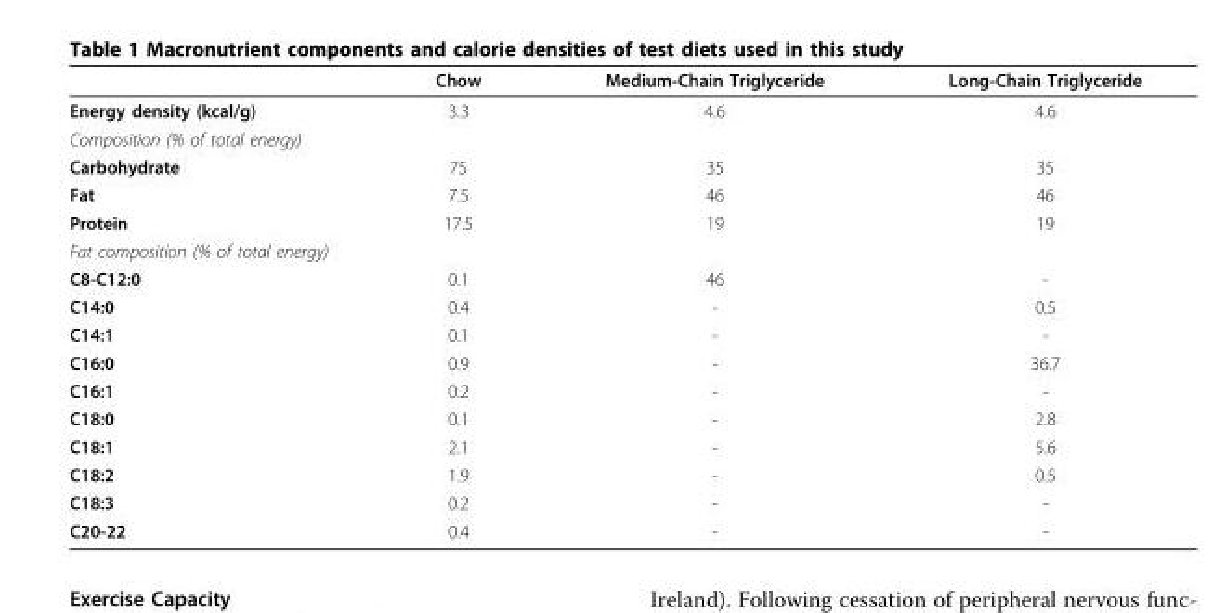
<table><thead><tr><td></td><td>Chow</td><td>Medium-Chain Triglyceride</td><td>Long-Chain Triglyceride</td></tr></thead><tbody><tr><td>Energy density (kcal/g)</td><td>3.3</td><td>4.6</td><td>4.6</td></tr><tr><td colspan="4">Composition (% of total energy)</td></tr><tr><td>Carbohydrate</td><td>75</td><td>35</td><td>35</td></tr><tr><td>Fat</td><td>7.5</td><td>46</td><td>46</td></tr><tr><td>Protein</td><td>17.5</td><td>19</td><td>19</td></tr><tr><td colspan="4">Fat composition (% of total energy)</td></tr><tr><td>C8-C12:0</td><td>0.1</td><td>46</td><td>-</td></tr><tr><td>C14:0</td><td>0.4</td><td>-</td><td>0.5</td></tr><tr><td>C14:1</td><td>0.1</td><td>-</td><td>-</td></tr><tr><td>C16:0</td><td>0.9</td><td>-</td><td>36.7</td></tr><tr><td>C16:1</td><td>0.2</td><td>-</td><td>-</td></tr><tr><td>C18:0</td><td>0.1</td><td>-</td><td>2.8</td></tr><tr><td>C18:1</td><td>2.1</td><td>-</td><td>5.6</td></tr><tr><td>C18:2</td><td>1.9</td><td>-</td><td>0.5</td></tr><tr><td>C18:3</td><td>0.2</td><td>-</td><td>-</td></tr><tr><td>C20-22</td><td>0.4</td><td>-</td><td>-</td></tr></tbody></table>